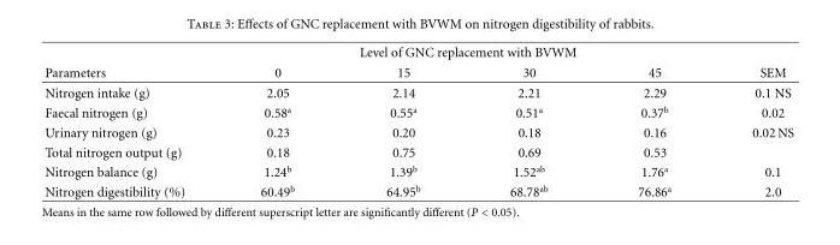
<table><thead><tr><td rowspan="2">Parameters</td><td colspan="4">Level of GNC replacement with BVWM</td><td rowspan="2">SEM</td></tr><tr><td>0</td><td>15</td><td>30</td><td>45</td></tr></thead><tbody><tr><td>Nitrogen intake (g)</td><td>2.05</td><td>2.14</td><td>2.21</td><td>2.29</td><td>0.1 NS</td></tr><tr><td>Faecal nitrogen (g)</td><td>0.58<sup>a</sup></td><td>0.55<sup>a</sup></td><td>0.51<sup>a</sup></td><td>0.37<sup>b</sup></td><td>0.02</td></tr><tr><td>Urinary nitrogen (g)</td><td>0.23</td><td>0.20</td><td>0.18</td><td>0.16</td><td>0.02 NS</td></tr><tr><td>Total nitrogen output (g)</td><td>0.18</td><td>0.75</td><td>0.69</td><td>0.53</td><td></td></tr><tr><td>Nitrogen balance (g)</td><td>1.24<sup>b</sup></td><td>1.39<sup>b</sup></td><td>1.52<sup>ab</sup></td><td>1.76<sup>a</sup></td><td>0.1</td></tr><tr><td>Nitrogen digestibility (%)</td><td>60.49<sup>b</sup></td><td>64.95<sup>b</sup></td><td>68.78<sup>ab</sup></td><td>76.86<sup>a</sup></td><td>2.0</td></tr></tbody></table>